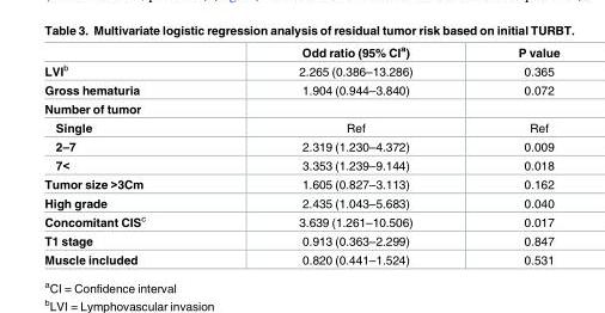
<table><thead><tr><td></td><td>Odd ratio (95% CI<sup>a</sup>)</td><td>P value</td></tr></thead><tbody><tr><td>LVI<sup>b</sup></td><td>2.265 (0.386–13.286)</td><td>0.365</td></tr><tr><td>Gross hematuria</td><td>1.904 (0.944–3.840)</td><td>0.072</td></tr><tr><td colspan="3">Number of tumor</td></tr><tr><td>Single</td><td>Ref</td><td>Ref</td></tr><tr><td>2–7</td><td>2.319 (1.230–4.372)</td><td>0.009</td></tr><tr><td>7&lt;</td><td>3.353 (1.239–9.144)</td><td>0.018</td></tr><tr><td>Tumor size &gt;3Cm</td><td>1.605 (0.827–3.113)</td><td>0.162</td></tr><tr><td>High grade</td><td>2.435 (1.043–5.683)</td><td>0.040</td></tr><tr><td>Concomitant CIS<sup>c</sup></td><td>3.639 (1.261–10.506)</td><td>0.017</td></tr><tr><td>T1 stage</td><td>0.913 (0.363–2.299)</td><td>0.847</td></tr><tr><td>Muscle included</td><td>0.820 (0.441–1.524)</td><td>0.531</td></tr></tbody></table>